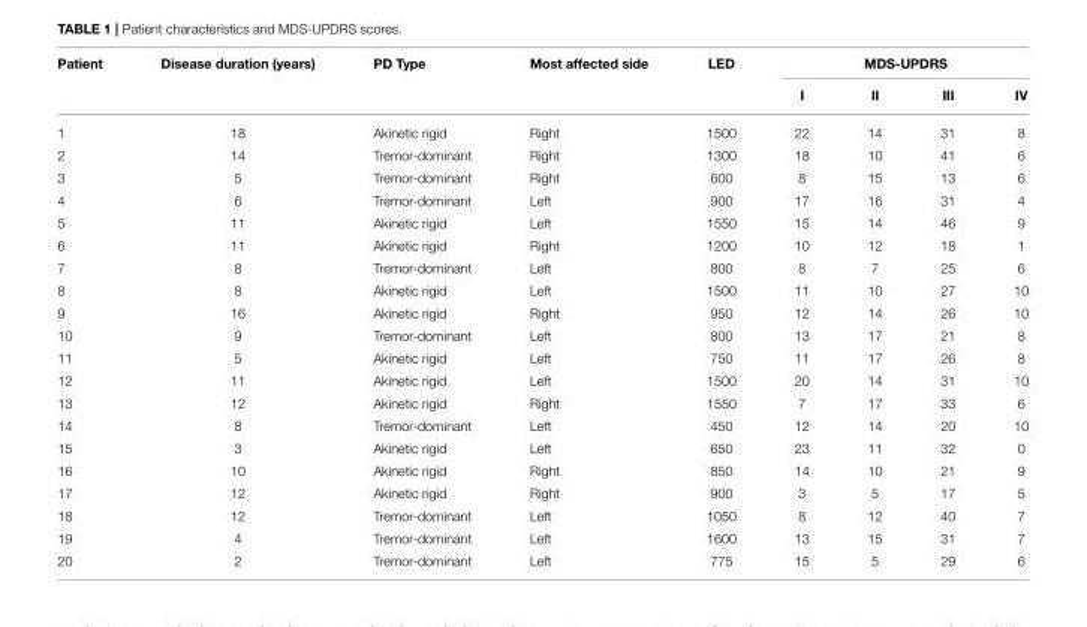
<table><thead><tr><td rowspan="2">Patient</td><td rowspan="2">Disease duration (years)</td><td rowspan="2">PD Type</td><td rowspan="2">Most affected side</td><td rowspan="2">LED</td><td colspan="4">MDS-UPDRS</td></tr><tr><td>I</td><td>II</td><td>III</td><td>IV</td></tr></thead><tbody><tr><td>1</td><td>18</td><td>Akinetic rigid</td><td>Right</td><td>1500</td><td>22</td><td>14</td><td>31</td><td>8</td></tr><tr><td>2</td><td>14</td><td>Tremor-dominant</td><td>Right</td><td>1300</td><td>18</td><td>10</td><td>41</td><td>6</td></tr><tr><td>3</td><td>5</td><td>Tremor-dominant</td><td>Right</td><td>600</td><td>8</td><td>15</td><td>13</td><td>6</td></tr><tr><td>4</td><td>6</td><td>Tremor-dominant</td><td>Left</td><td>900</td><td>17</td><td>16</td><td>31</td><td>4</td></tr><tr><td>5</td><td>11</td><td>Akinetic rigid</td><td>Left</td><td>1550</td><td>15</td><td>14</td><td>46</td><td>9</td></tr><tr><td>6</td><td>11</td><td>Akinetic rigid</td><td>Right</td><td>1200</td><td>10</td><td>12</td><td>18</td><td>1</td></tr><tr><td>7</td><td>8</td><td>Tremor-dominant</td><td>Left</td><td>800</td><td>8</td><td>7</td><td>25</td><td>6</td></tr><tr><td>8</td><td>8</td><td>Akinetic rigid</td><td>Left</td><td>1500</td><td>11</td><td>10</td><td>27</td><td>10</td></tr><tr><td>9</td><td>16</td><td>Akinetic rigid</td><td>Right</td><td>950</td><td>12</td><td>14</td><td>26</td><td>10</td></tr><tr><td>10</td><td>9</td><td>Tremor-dominant</td><td>Left</td><td>800</td><td>13</td><td>17</td><td>21</td><td>8</td></tr><tr><td>11</td><td>5</td><td>Akinetic rigid</td><td>Left</td><td>750</td><td>11</td><td>17</td><td>26</td><td>8</td></tr><tr><td>12</td><td>11</td><td>Akinetic rigid</td><td>Left</td><td>1500</td><td>20</td><td>14</td><td>31</td><td>10</td></tr><tr><td>13</td><td>12</td><td>Akinetic rigid</td><td>Right</td><td>1550</td><td>7</td><td>17</td><td>33</td><td>6</td></tr><tr><td>14</td><td>8</td><td>Tremor-dominant</td><td>Left</td><td>450</td><td>12</td><td>14</td><td>20</td><td>10</td></tr><tr><td>15</td><td>3</td><td>Akinetic rigid</td><td>Left</td><td>650</td><td>23</td><td>11</td><td>32</td><td>0</td></tr><tr><td>16</td><td>10</td><td>Akinetic rigid</td><td>Right</td><td>850</td><td>14</td><td>10</td><td>21</td><td>9</td></tr><tr><td>17</td><td>12</td><td>Akinetic rigid</td><td>Right</td><td>900</td><td>3</td><td>5</td><td>17</td><td>5</td></tr><tr><td>18</td><td>12</td><td>Tremor-dominant</td><td>Left</td><td>1050</td><td>8</td><td>12</td><td>40</td><td>7</td></tr><tr><td>19</td><td>4</td><td>Tremor-dominant</td><td>Left</td><td>1600</td><td>13</td><td>15</td><td>31</td><td>7</td></tr><tr><td>20</td><td>2</td><td>Tremor-dominant</td><td>Left</td><td>775</td><td>15</td><td>5</td><td>29</td><td>6</td></tr></tbody></table>